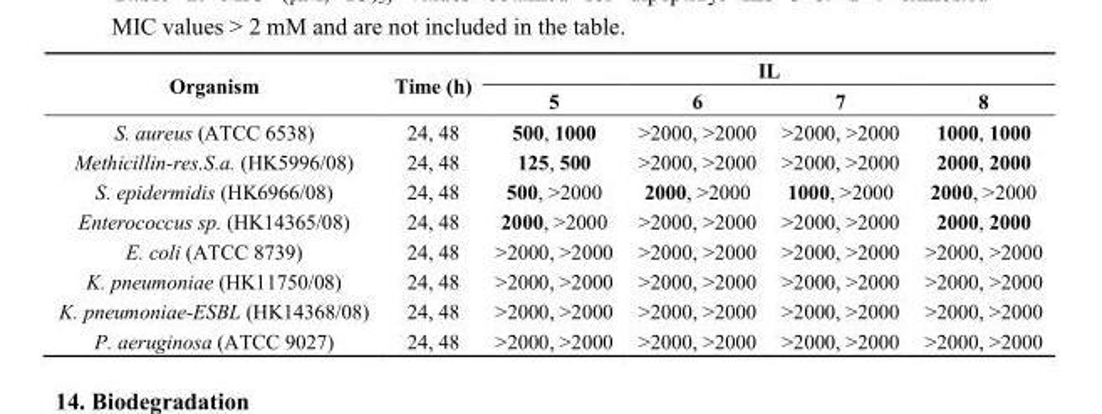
<table><thead><tr><td rowspan="2">Organism</td><td rowspan="2">Time (h)</td><td colspan="4">IL</td></tr><tr><td>5</td><td>6</td><td>7</td><td>8</td></tr></thead><tbody><tr><td>S. aureus (ATCC 6538)</td><td>24, 48</td><td>500, 1000</td><td>&gt;2000, &gt;2000</td><td>&gt;2000, &gt;2000</td><td>1000, 1000</td></tr><tr><td>Methicillin-res.S.a. (HK5996/08)</td><td>24, 48</td><td>125, 500</td><td>&gt;2000, &gt;2000</td><td>&gt;2000, &gt;2000</td><td>2000, 2000</td></tr><tr><td>S. epidermidis (HK6966/08)</td><td>24, 48</td><td>500, &gt;2000</td><td>2000, &gt;2000</td><td>1000, &gt;2000</td><td>2000, &gt;2000</td></tr><tr><td>Enterococcus sp. (HK14365/08)</td><td>24, 48</td><td>2000, &gt;2000</td><td>&gt;2000, &gt;2000</td><td>&gt;2000, &gt;2000</td><td>2000, 2000</td></tr><tr><td>E. coli (ATCC 8739)</td><td>24, 48</td><td>&gt;2000, &gt;2000</td><td>&gt;2000, &gt;2000</td><td>&gt;2000, &gt;2000</td><td>&gt;2000, &gt;2000</td></tr><tr><td>K. pneumoniae (HK11750/08)</td><td>24, 48</td><td>&gt;2000, &gt;2000</td><td>&gt;2000, &gt;2000</td><td>&gt;2000, &gt;2000</td><td>&gt;2000, &gt;2000</td></tr><tr><td>K. pneumoniae-ESBL (HK14368/08)</td><td>24, 48</td><td>&gt;2000, &gt;2000</td><td>&gt;2000, &gt;2000</td><td>&gt;2000, &gt;2000</td><td>&gt;2000, &gt;2000</td></tr><tr><td>P. aeruginosa (ATCC 9027)</td><td>24, 48</td><td>&gt;2000, &gt;2000</td><td>&gt;2000, &gt;2000</td><td>&gt;2000, &gt;2000</td><td>&gt;2000, &gt;2000</td></tr></tbody></table>